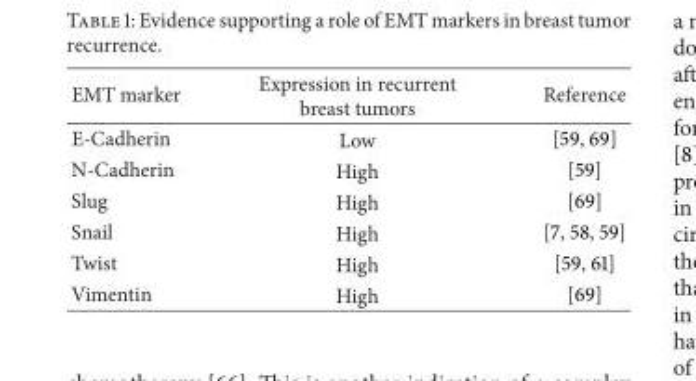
<table><thead><tr><td>EMT marker</td><td>Expression in recurrent breast tumors</td><td>Reference</td></tr></thead><tbody><tr><td>E-Cadherin</td><td>Low</td><td>[59, 69]</td></tr><tr><td>N-Cadherin</td><td>High</td><td>[59]</td></tr><tr><td>Slug</td><td>High</td><td>[69]</td></tr><tr><td>Snail</td><td>High</td><td>[7, 58, 59]</td></tr><tr><td>Twist</td><td>High</td><td>[59, 61]</td></tr><tr><td>Vimentin</td><td>High</td><td>[69]</td></tr></tbody></table>